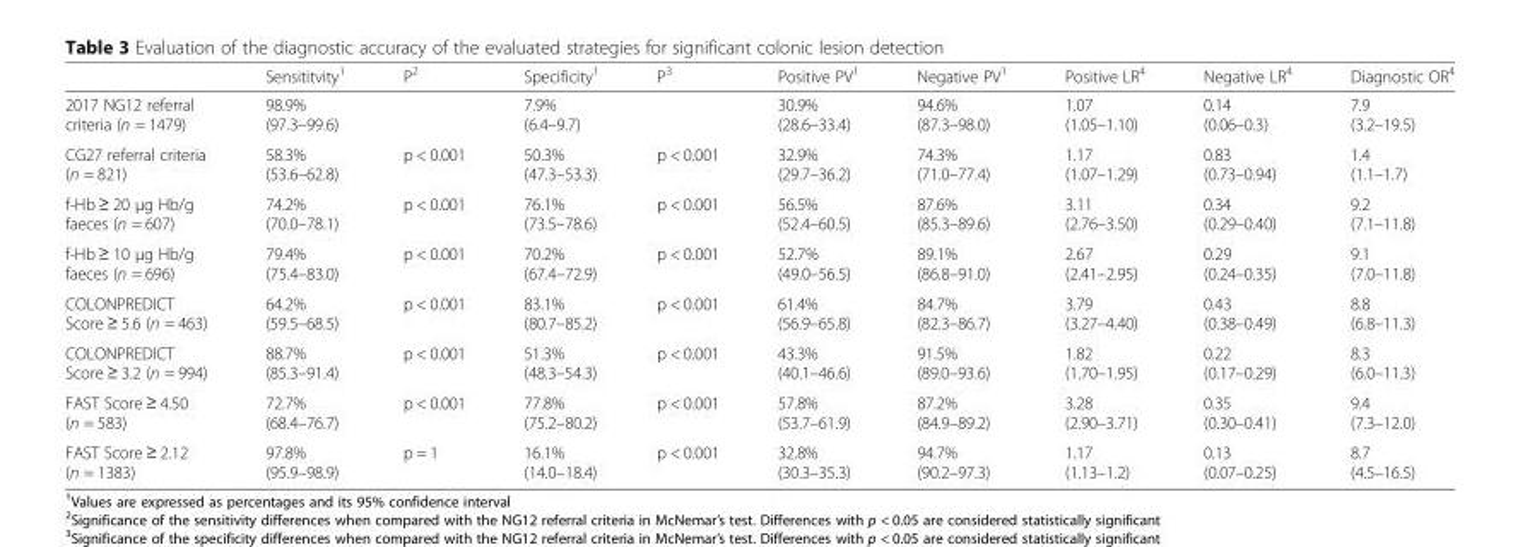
<table><thead><tr><td></td><td>Sensititvity<sup>1</sup></td><td>P<sup>2</sup></td><td>Specificity<sup>1</sup></td><td>P<sup>3</sup></td><td>Positive PV<sup>1</sup></td><td>Negative PV<sup>1</sup></td><td>Positive LR<sup>4</sup></td><td>Negative LR<sup>4</sup></td><td>Diagnostic OR<sup>4</sup></td></tr></thead><tbody><tr><td>2017 NG12 referral criteria (n = 1479)</td><td>98.9% (97.3–99.6)</td><td></td><td>7.9% (6.4–9.7)</td><td></td><td>30.9% (28.6–33.4)</td><td>94.6% (87.3–98.0)</td><td>1.07 (1.05–1.10)</td><td>0.14 (0.06–0.3)</td><td>7.9 (3.2–19.5)</td></tr><tr><td>CG27 referral criteria (n = 821)</td><td>58.3% (53.6–62.8)</td><td>p &lt; 0.001</td><td>50.3% (47.3–53.3)</td><td>p &lt; 0.001</td><td>32.9% (29.7–36.2)</td><td>74.3% (71.0–77.4)</td><td>1.17 (1.07–1.29)</td><td>0.83 (0.73–0.94)</td><td>1.4 (1.1–1.7)</td></tr><tr><td>f-Hb ≥ 20 μg Hb/g faeces (n = 607)</td><td>74.2% (70.0–78.1)</td><td>p &lt; 0.001</td><td>76.1% (73.5–78.6)</td><td>p &lt; 0.001</td><td>56.5% (52.4–60.5)</td><td>87.6% (85.3–89.6)</td><td>3.11 (2.76–3.50)</td><td>0.34 (0.29–0.40)</td><td>9.2 (7.1–11.8)</td></tr><tr><td>f-Hb ≥ 10 μg Hb/g faeces (n = 696)</td><td>79.4% (75.4–83.0)</td><td>p &lt; 0.001</td><td>70.2% (67.4–72.9)</td><td>p &lt; 0.001</td><td>52.7% (49.0–56.5)</td><td>89.1% (86.8–91.0)</td><td>2.67 (2.41–2.95)</td><td>0.29 (0.24–0.35)</td><td>9.1 (7.0–11.8)</td></tr><tr><td>COLONPREDICT Score ≥ 5.6 (n = 463)</td><td>64.2% (59.5–68.5)</td><td>p &lt; 0.001</td><td>83.1% (80.7–85.2)</td><td>p &lt; 0.001</td><td>61.4% (56.9–65.8)</td><td>84.7% (82.3–86.7)</td><td>3.79 (3.27–4.40)</td><td>0.43 (0.38–0.49)</td><td>8.8 (6.8–11.3)</td></tr><tr><td>COLONPREDICT Score ≥ 3.2 (n = 994)</td><td>88.7% (85.3–91.4)</td><td>p &lt; 0.001</td><td>51.3% (48.3–54.3)</td><td>p &lt; 0.001</td><td>43.3% (40.1–46.6)</td><td>91.5% (89.0–93.6)</td><td>1.82 (1.70–1.95)</td><td>0.22 (0.17–0.29)</td><td>8.3 (6.0–11.3)</td></tr><tr><td>FAST Score ≥ 4.50 (n = 583)</td><td>72.7% (68.4–76.7)</td><td>p &lt; 0.001</td><td>77.8% (75.2–80.2)</td><td>p &lt; 0.001</td><td>57.8% (53.7–61.9)</td><td>87.2% (84.9–89.2)</td><td>3.28 (2.90–3.71)</td><td>0.35 (0.30–0.41)</td><td>9.4 (7.3–12.0)</td></tr><tr><td>FAST Score ≥ 2.12 (n = 1383)</td><td>97.8% (95.9–98.9)</td><td>p = 1</td><td>16.1% (14.0–18.4)</td><td>p &lt; 0.001</td><td>32.8% (30.3–35.3)</td><td>94.7% (90.2–97.3)</td><td>1.17 (1.13–1.2)</td><td>0.13 (0.07–0.25)</td><td>8.7 (4.5–16.5)</td></tr></tbody></table>